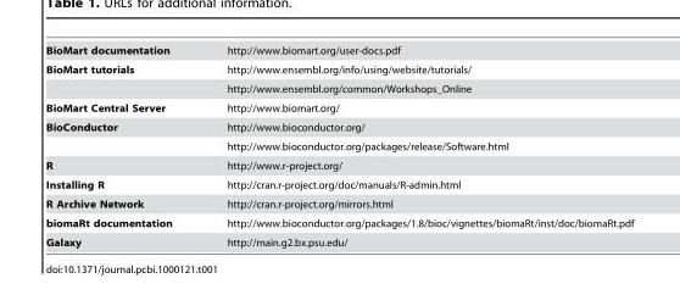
<table><tbody><tr><td>BioMart documentation</td><td>http://www.biomart.org/user-docs.pdf</td></tr><tr><td rowspan="2">BioMart tutorials</td><td>http://www.ensembl.org/info/using/website/tutorials/</td></tr><tr><td>http://www.ensembl.org/common/Workshops_Online</td></tr><tr><td>BioMart Central Server</td><td>http://www.biomart.org/</td></tr><tr><td rowspan="2">BioConductor</td><td>http://www.bioconductor.org/</td></tr><tr><td>http://www.bioconductor.org/packages/release/Software.html</td></tr><tr><td>R</td><td>http://www.r-project.org/</td></tr><tr><td>Installing R</td><td>http://cran.r-project.org/doc/manuals/R-admin.html</td></tr><tr><td>R Archive Network</td><td>http://cran.r-project.org/mirrors.html</td></tr><tr><td>biomaRt documentation</td><td>http://www.bioconductor.org/packages/1.8/bioc/vignettes/biomaRt/inst/doc/biomaRt.pdf</td></tr><tr><td>Galaxy</td><td>http://main.g2.bx.psu.edu/</td></tr></tbody></table>